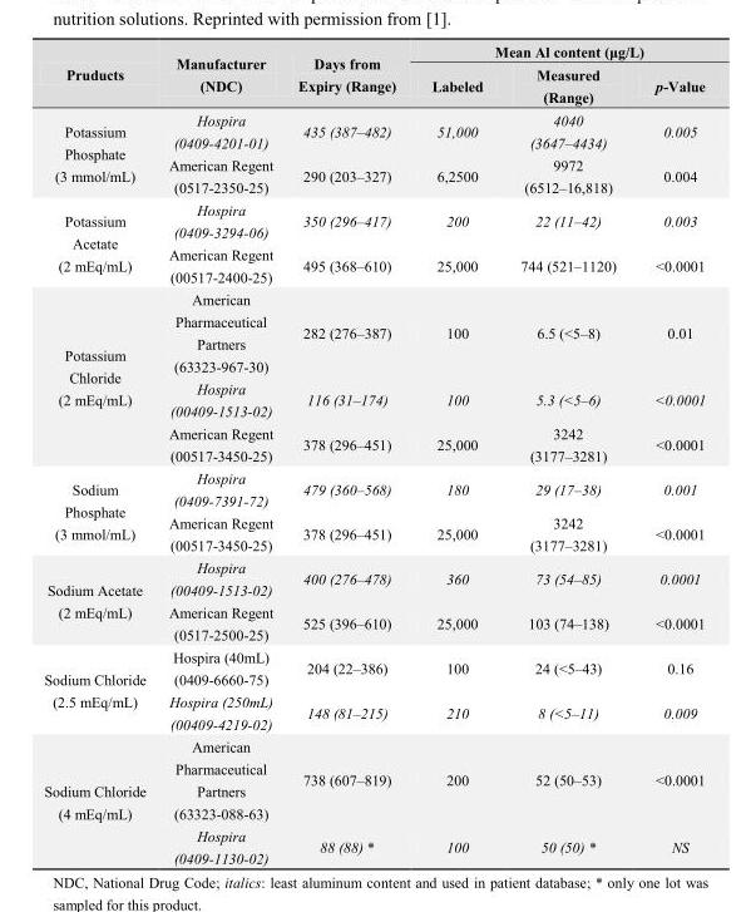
<table><thead><tr><td rowspan="2">Pruducts</td><td rowspan="2">Manufacturer (NDC)</td><td rowspan="2">Days from Expiry (Range)</td><td colspan="3">Mean Al content (μg/L)</td></tr><tr><td>Labeled</td><td>Measured (Range)</td><td>p-Value</td></tr></thead><tbody><tr><td rowspan="2">Potassium Phosphate (3 mmol/mL)</td><td>Hospira (0409-4201-01)</td><td>435 (387–482)</td><td>51,000</td><td>4040 (3647–4434)</td><td>0.005</td></tr><tr><td>American Regent (0517-2350-25)</td><td>290 (203–327)</td><td>6,2500</td><td>9972 (6512–16,818)</td><td>0.004</td></tr><tr><td rowspan="2">Potassium Acetate (2 mEq/mL)</td><td>Hospira (0409-3294-06)</td><td>350 (296–417)</td><td>200</td><td>22 (11–42)</td><td>0.003</td></tr><tr><td>American Regent (00517-2400-25)</td><td>495 (368–610)</td><td>25,000</td><td>744 (521–1120)</td><td>&lt;0.0001</td></tr><tr><td rowspan="3">Potassium Chloride (2 mEq/mL)</td><td>American Pharmaceutical Partners (63323-967-30)</td><td>282 (276–387)</td><td>100</td><td>6.5 (&lt;5–8)</td><td>0.01</td></tr><tr><td>Hospira (00409-1513-02)</td><td>116 (31–174)</td><td>100</td><td>5.3 (&lt;5–6)</td><td>&lt;0.0001</td></tr><tr><td>American Regent (00517-3450-25)</td><td>378 (296–451)</td><td>25,000</td><td>3242 (3177–3281)</td><td>&lt;0.0001</td></tr><tr><td rowspan="2">Sodium Phosphate (3 mmol/mL)</td><td>Hospira (0409-7391-72)</td><td>479 (360–568)</td><td>180</td><td>29 (17–38)</td><td>0.001</td></tr><tr><td>American Regent (00517-3450-25)</td><td>378 (296–451)</td><td>25,000</td><td>3242 (3177–3281)</td><td>&lt;0.0001</td></tr><tr><td rowspan="2">Sodium Acetate (2 mEq/mL)</td><td>Hospira (00409-1513-02)</td><td>400 (276–478)</td><td>360</td><td>73 (54–85)</td><td>0.0001</td></tr><tr><td>American Regent (0517-2500-25)</td><td>525 (396–610)</td><td>25,000</td><td>103 (74–138)</td><td>&lt;0.0001</td></tr><tr><td rowspan="2">Sodium Chloride (2.5 mEq/mL)</td><td>Hospira (40mL) (0409-6660-75)</td><td>204 (22–386)</td><td>100</td><td>24 (&lt;5–43)</td><td>0.16</td></tr><tr><td>Hospira (250mL) (00409-4219-02)</td><td>148 (81–215)</td><td>210</td><td>8 (&lt;5–11)</td><td>0.009</td></tr><tr><td rowspan="2">Sodium Chloride (4 mEq/mL)</td><td>American Pharmaceutical Partners (63323-088-63)</td><td>738 (607–819)</td><td>200</td><td>52 (50–53)</td><td>&lt;0.0001</td></tr><tr><td>Hospira (0409-1130-02)</td><td>88 (88) *</td><td>100</td><td>50 (50) *</td><td>NS</td></tr></tbody></table>